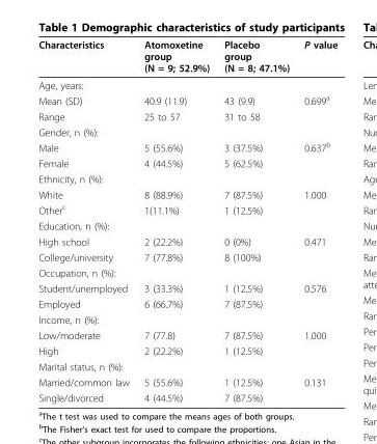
<table><thead><tr><td>Characteristics</td><td>Atomoxetine group (N = 9; 52.9%)</td><td>Placebo group (N = 8; 47.1%)</td><td>P value</td></tr></thead><tbody><tr><td colspan="4">Age, years:</td></tr><tr><td>Mean (SD)</td><td>40.9 (11.9)</td><td>43 (9.9)</td><td>0.699<sup>a</sup></td></tr><tr><td>Range</td><td>25 to 57</td><td>31 to 58</td><td></td></tr><tr><td colspan="4">Gender, n (%):</td></tr><tr><td>Male</td><td>5 (55.6%)</td><td>3 (37.5%)</td><td>0.637<sup>b</sup></td></tr><tr><td>Female</td><td>4 (44.5%)</td><td>5 (62.5%)</td><td></td></tr><tr><td colspan="4">Ethnicity, n (%):</td></tr><tr><td>White</td><td>8 (88.9%)</td><td>7 (87.5%)</td><td>1.000</td></tr><tr><td>Other<sup>c</sup></td><td>1(11.1%)</td><td>1 (12.5%)</td><td></td></tr><tr><td colspan="4">Education, n (%):</td></tr><tr><td>High school</td><td>2 (22.2%)</td><td>0 (0%)</td><td>0.471</td></tr><tr><td>College/university</td><td>7 (77.8%)</td><td>8 (100%)</td><td></td></tr><tr><td colspan="4">Occupation, n (%):</td></tr><tr><td>Student/unemployed</td><td>3 (33.3%)</td><td>1 (12.5%)</td><td>0.576</td></tr><tr><td>Employed</td><td>6 (66.7%)</td><td>7 (87.5%)</td><td></td></tr><tr><td colspan="4">Income, n (%):</td></tr><tr><td>Low/moderate</td><td>7 (77.8)</td><td>7 (87.5%)</td><td>1.000</td></tr><tr><td>High</td><td>2 (22.2%)</td><td>1 (12.5%)</td><td></td></tr><tr><td colspan="4">Marital status, n (%):</td></tr><tr><td>Married/common law</td><td>5 (55.6%)</td><td>1 (12.5%)</td><td>0.131</td></tr><tr><td>Single/divorced</td><td>4 (44.5%)</td><td>7 (87.5%)</td><td></td></tr></tbody></table>